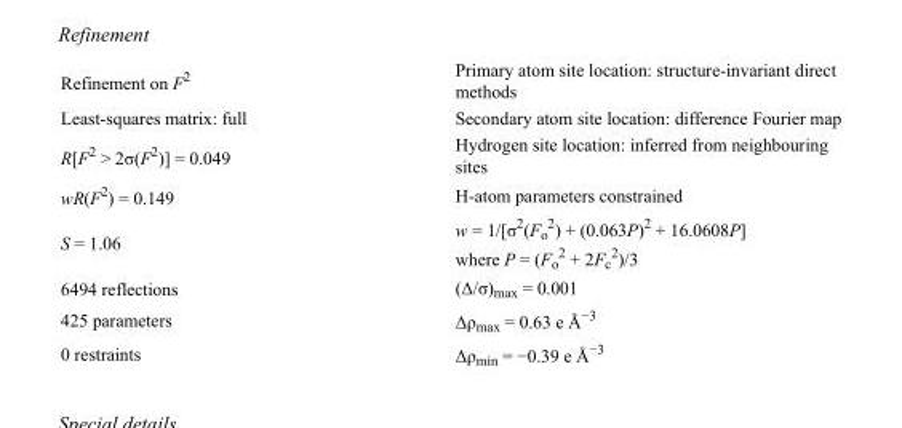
<table><tbody><tr><td>Refinement on F<sup>2</sup></td><td>Primary atom site location: structure-invariant direct methods</td></tr><tr><td>Least-squares matrix: full</td><td>Secondary atom site location: difference Fourier map</td></tr><tr><td>R[F<sup>2</sup> &gt; 2σ(F<sup>2</sup>)] = 0.049</td><td>Hydrogen site location: inferred from neighbouring sites</td></tr><tr><td>wR(F<sup>2</sup>) = 0.149</td><td>H-atom parameters constrained</td></tr><tr><td>S = 1.06</td><td>w = 1/[σ<sup>2</sup>(F<sub>o</sub> <sup>2</sup>) + (0.063P)<sup>2</sup> + 16.0608P] where P = (F<sub>o</sub> <sup>2</sup> + 2F<sub>c</sub> <sup>2</sup>)/3</td></tr><tr><td>6494 reflections</td><td>(Δ/σ)<sub>max</sub> = 0.001</td></tr><tr><td>425 parameters</td><td>Δρ<sub>max</sub> = 0.63 e Å<sup>−3</sup></td></tr><tr><td>0 restraints</td><td>Δρ<sub>min</sub> = −0.39 e Å<sup>−3</sup></td></tr></tbody></table>